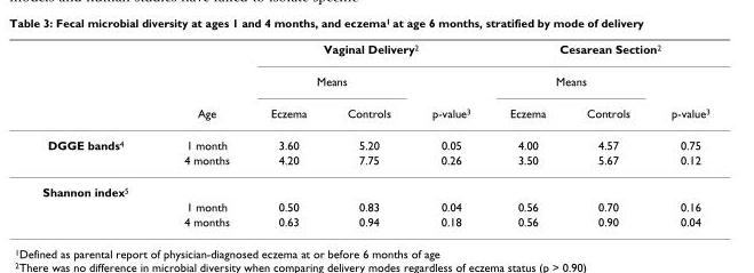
<table><thead><tr><td rowspan="3"></td><td rowspan="3">Age</td><td colspan="3">Vaginal Delivery<sup>2</sup></td><td colspan="3">Cesarean Section<sup>2</sup></td></tr><tr><td colspan="2">Means</td><td rowspan="2">p-value<sup>3</sup></td><td colspan="2">Means</td><td rowspan="2">p-value<sup>3</sup></td></tr><tr><td>Eczema</td><td>Controls</td><td>Eczema</td><td>Controls</td></tr></thead><tbody><tr><td rowspan="2">DGGE bands<sup>4</sup></td><td>1 month</td><td>3.60</td><td>5.20</td><td>0.05</td><td>4.00</td><td>4.57</td><td>0.75</td></tr><tr><td>4 months</td><td>4.20</td><td>7.75</td><td>0.26</td><td>3.50</td><td>5.67</td><td>0.12</td></tr><tr><td colspan="8">Shannon index<sup>5</sup></td></tr><tr><td></td><td>1 month</td><td>0.50</td><td>0.83</td><td>0.04</td><td>0.56</td><td>0.70</td><td>0.16</td></tr><tr><td></td><td>4 months</td><td>0.63</td><td>0.94</td><td>0.18</td><td>0.56</td><td>0.90</td><td>0.04</td></tr></tbody></table>